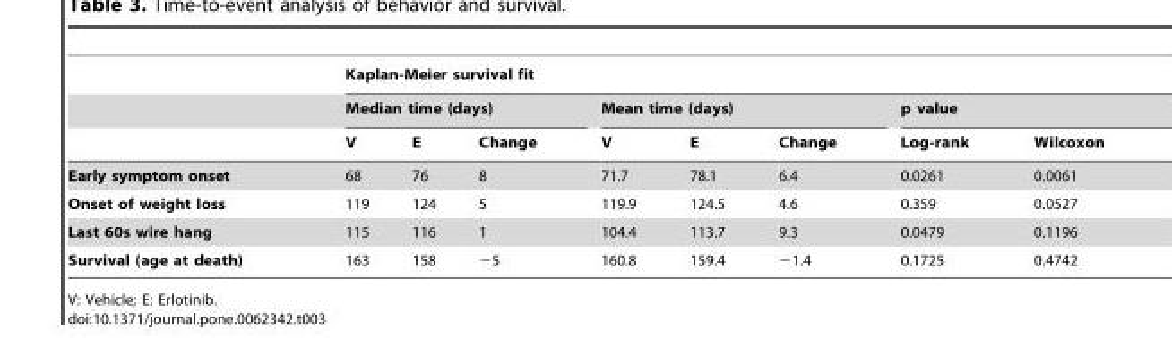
<table><thead><tr><td rowspan="3"></td><td colspan="8">Kaplan-Meier survival fit</td></tr><tr><td colspan="3">Median time (days)</td><td colspan="3">Mean time (days)</td><td colspan="2">p value</td></tr><tr><td>V</td><td>E</td><td>Change</td><td>V</td><td>E</td><td>Change</td><td>Log-rank</td><td>Wilcoxon</td></tr></thead><tbody><tr><td>Early symptom onset</td><td>68</td><td>76</td><td>8</td><td>71.7</td><td>78.1</td><td>6.4</td><td>0.0261</td><td>0.0061</td></tr><tr><td>Onset of weight loss</td><td>119</td><td>124</td><td>5</td><td>119.9</td><td>124.5</td><td>4.6</td><td>0.359</td><td>0.0527</td></tr><tr><td>Last 60s wire hang</td><td>115</td><td>116</td><td>1</td><td>104.4</td><td>113.7</td><td>9.3</td><td>0.0479</td><td>0.1196</td></tr><tr><td>Survival (age at death)</td><td>163</td><td>158</td><td>−5</td><td>160.8</td><td>159.4</td><td>−1.4</td><td>0.1725</td><td>0.4742</td></tr></tbody></table>